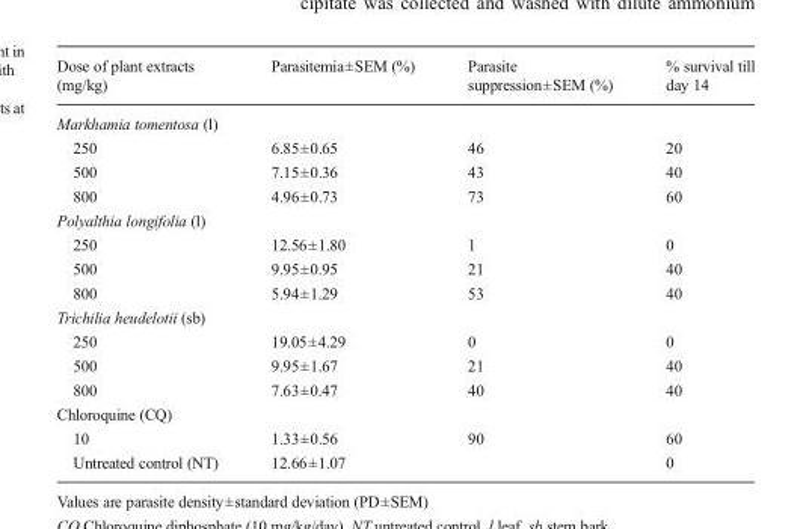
<table><thead><tr><td>Dose of plant extracts (mg/kg)</td><td>Parasitemia±SEM (%)</td><td>Parasite suppression±SEM (%)</td><td>% survival till day 14</td></tr></thead><tbody><tr><td colspan="4">Markhamia tomentosa (l)</td></tr><tr><td>250</td><td>6.85±0.65</td><td>46</td><td>20</td></tr><tr><td>500</td><td>7.15±0.36</td><td>43</td><td>40</td></tr><tr><td>800</td><td>4.96±0.73</td><td>73</td><td>60</td></tr><tr><td colspan="4">Polyalthia longifolia (l)</td></tr><tr><td>250</td><td>12.56±1.80</td><td>1</td><td>0</td></tr><tr><td>500</td><td>9.95±0.95</td><td>21</td><td>40</td></tr><tr><td>800</td><td>5.94±1.29</td><td>53</td><td>40</td></tr><tr><td colspan="4">Trichilia heudelotii (sb)</td></tr><tr><td>250</td><td>19.05±4.29</td><td>0</td><td>0</td></tr><tr><td>500</td><td>9.95±1.67</td><td>21</td><td>40</td></tr><tr><td>800</td><td>7.63±0.47</td><td>40</td><td>40</td></tr><tr><td colspan="4">Chloroquine (CQ)</td></tr><tr><td>10</td><td>1.33±0.56</td><td>90</td><td>60</td></tr><tr><td>Untreated control (NT)</td><td>12.66±1.07</td><td></td><td>0</td></tr></tbody></table>